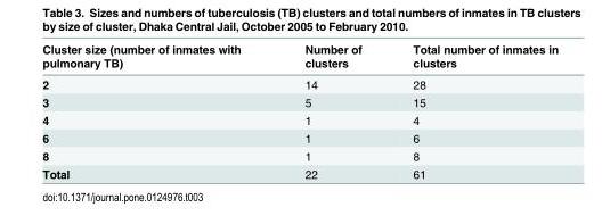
<table><thead><tr><td>Cluster size (number of inmates with pulmonary TB)</td><td>Number of clusters</td><td>Total number of inmates in clusters</td></tr></thead><tbody><tr><td>2</td><td>14</td><td>28</td></tr><tr><td>3</td><td>5</td><td>15</td></tr><tr><td>4</td><td>1</td><td>4</td></tr><tr><td>6</td><td>1</td><td>6</td></tr><tr><td>8</td><td>1</td><td>8</td></tr><tr><td>Total</td><td>22</td><td>61</td></tr></tbody></table>